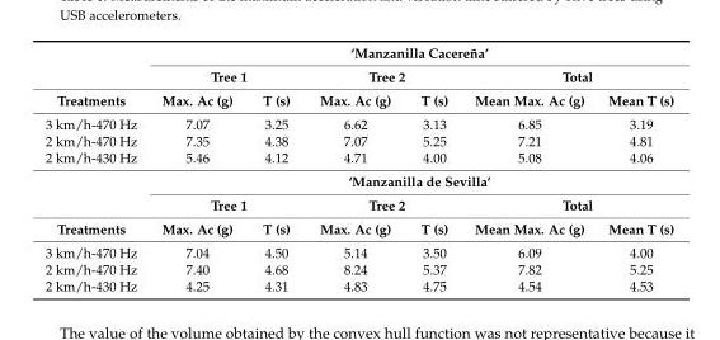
<table><thead><tr><td rowspan="3">Treatments</td><td colspan="6">‘Manzanilla Cacereña’</td></tr><tr><td colspan="2">Tree 1</td><td colspan="2">Tree 2</td><td colspan="2">Total</td></tr><tr><td>Max. Ac (g)</td><td>T (s)</td><td>Max. Ac (g)</td><td>T (s)</td><td>Mean Max. Ac (g)</td><td>Mean T (s)</td></tr></thead><tbody><tr><td>3 km/h-470 Hz</td><td>7.07</td><td>3.25</td><td>6.62</td><td>3.13</td><td>6.85</td><td>3.19</td></tr><tr><td>2 km/h-470 Hz</td><td>7.35</td><td>4.38</td><td>7.07</td><td>5.25</td><td>7.21</td><td>4.81</td></tr><tr><td rowspan="3">2 km/h-430 Hz</td><td>5.46</td><td>4.12</td><td>4.71</td><td>4.00</td><td>5.08</td><td>4.06</td></tr><tr><td colspan="6">‘Manzanilla de Sevilla’</td></tr><tr><td colspan="2">Tree 1</td><td colspan="2">Tree 2</td><td colspan="2">Total</td></tr><tr><td>Treatments</td><td>Max. Ac (g)</td><td>T (s)</td><td>Max. Ac (g)</td><td>T (s)</td><td>Mean Max. Ac (g)</td><td>Mean T (s)</td></tr><tr><td>3 km/h-470 Hz</td><td>7.04</td><td>4.50</td><td>5.14</td><td>3.50</td><td>6.09</td><td>4.00</td></tr><tr><td>2 km/h-470 Hz</td><td>7.40</td><td>4.68</td><td>8.24</td><td>5.37</td><td>7.82</td><td>5.25</td></tr><tr><td>2 km/h-430 Hz</td><td>4.25</td><td>4.31</td><td>4.83</td><td>4.75</td><td>4.54</td><td>4.53</td></tr></tbody></table>